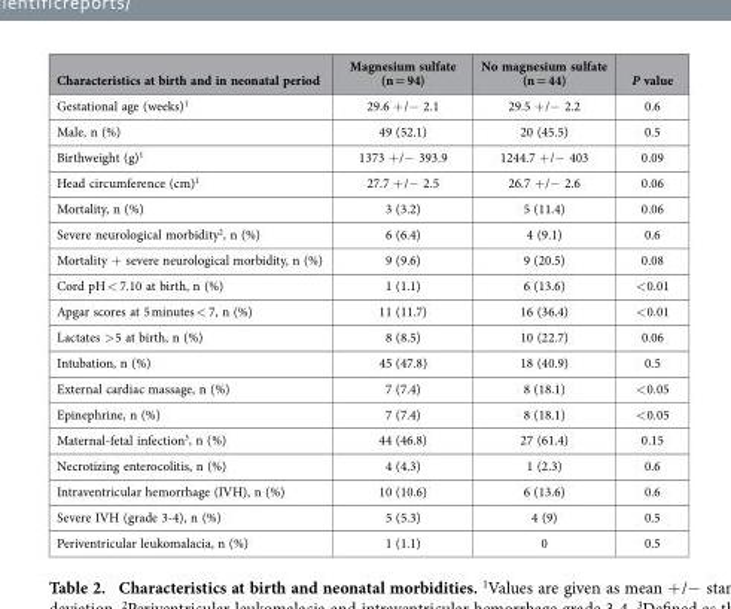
<table><thead><tr><td>Characteristics at birth and in neonatal period</td><td>Magnesium sulfate (n = 94)</td><td>No magnesium sulfate (n = 44)</td><td>P value</td></tr></thead><tbody><tr><td>Gestational age (weeks)<sup>1</sup></td><td>29.6 + /− 2.1</td><td>29.5 + /− 2.2</td><td>0.6</td></tr><tr><td>Male, n (%)</td><td>49 (52.1)</td><td>20 (45.5)</td><td>0.5</td></tr><tr><td>Birthweight (g)<sup>1</sup></td><td>1373 + /− 393.9</td><td>1244.7 + /− 403</td><td>0.09</td></tr><tr><td>Head circumference (cm)<sup>1</sup></td><td>27.7 + /− 2.5</td><td>26.7 + /− 2.6</td><td>0.06</td></tr><tr><td>Mortality, n (%)</td><td>3 (3.2)</td><td>5 (11.4)</td><td>0.06</td></tr><tr><td>Severe neurological morbidity<sup>2</sup>, n (%)</td><td>6 (6.4)</td><td>4 (9.1)</td><td>0.6</td></tr><tr><td>Mortality + severe neurological morbidity, n (%)</td><td>9 (9.6)</td><td>9 (20.5)</td><td>0.08</td></tr><tr><td>Cord pH &lt; 7.10 at birth, n (%)</td><td>1 (1.1)</td><td>6 (13.6)</td><td>&lt; 0.01</td></tr><tr><td>Apgar scores at 5 minutes &lt; 7, n (%)</td><td>11 (11.7)</td><td>16 (36.4)</td><td>&lt; 0.01</td></tr><tr><td>Lactates &gt; 5 at birth, n (%)</td><td>8 (8.5)</td><td>10 (22.7)</td><td>0.06</td></tr><tr><td>Intubation, n (%)</td><td>45 (47.8)</td><td>18 (40.9)</td><td>0.5</td></tr><tr><td>External cardiac massage, n (%)</td><td>7 (7.4)</td><td>8 (18.1)</td><td>&lt; 0.05</td></tr><tr><td>Epinephrine, n (%)</td><td>7 (7.4)</td><td>8 (18.1)</td><td>&lt; 0.05</td></tr><tr><td>Maternal-fetal infection<sup>3</sup>, n (%)</td><td>44 (46.8)</td><td>27 (61.4)</td><td>0.15</td></tr><tr><td>Necrotizing enterocolitis, n (%)</td><td>4 (4.3)</td><td>1 (2.3)</td><td>0.6</td></tr><tr><td>Intraventricular hemorrhage (IVH), n (%)</td><td>10 (10.6)</td><td>6 (13.6)</td><td>0.6</td></tr><tr><td>Severe IVH (grade 3-4), n (%)</td><td>5 (5.3)</td><td>4 (9)</td><td>0.5</td></tr><tr><td>Periventricular leukomalacia, n (%)</td><td>1 (1.1)</td><td>0</td><td>0.5</td></tr></tbody></table>